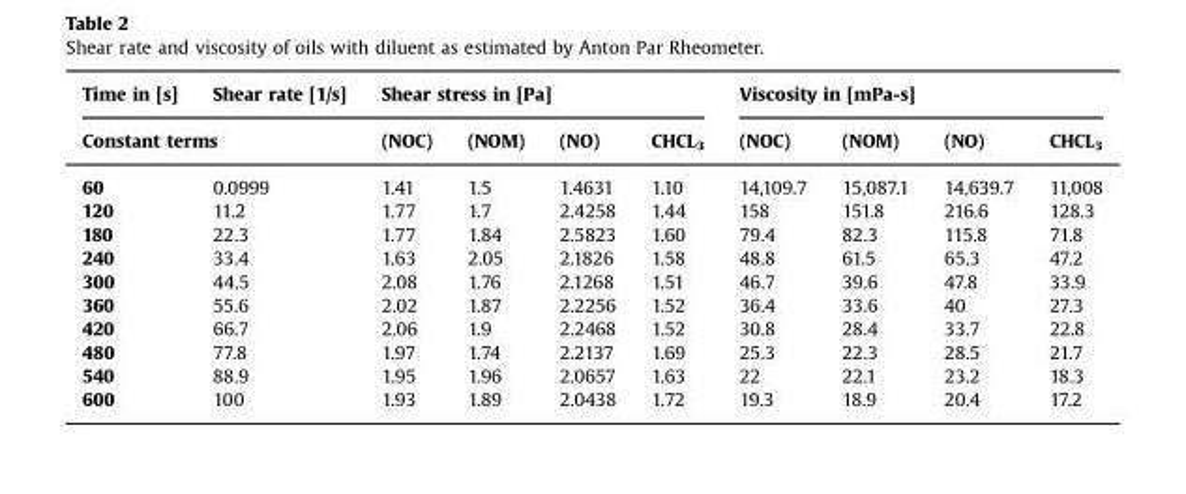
<table><thead><tr><td>Time in [s]</td><td>Shear rate [1/s]</td><td colspan="4">Shear stress in [Pa]</td><td colspan="4">Viscosity in [mPa-s]</td></tr><tr><td colspan="2">Constant terms</td><td>(NOC)</td><td>(NOM)</td><td>(NO)</td><td>CHCL<sub>3</sub></td><td>(NOC)</td><td>(NOM)</td><td>(NO)</td><td>CHCL<sub>3</sub></td></tr></thead><tbody><tr><td>60</td><td>0.0999</td><td>1.41</td><td>1.5</td><td>1.4631</td><td>1.10</td><td>14,109.7</td><td>15,087.1</td><td>14,639.7</td><td>11,008</td></tr><tr><td>120</td><td>11.2</td><td>1.77</td><td>1.7</td><td>2.4258</td><td>1.44</td><td>158</td><td>151.8</td><td>216.6</td><td>128.3</td></tr><tr><td>180</td><td>22.3</td><td>1.77</td><td>1.84</td><td>2.5823</td><td>1.60</td><td>79.4</td><td>82.3</td><td>115.8</td><td>71.8</td></tr><tr><td>240</td><td>33.4</td><td>1.63</td><td>2.05</td><td>2.1826</td><td>1.58</td><td>48.8</td><td>61.5</td><td>65.3</td><td>47.2</td></tr><tr><td>300</td><td>44.5</td><td>2.08</td><td>1.76</td><td>2.1268</td><td>1.51</td><td>46.7</td><td>39.6</td><td>47.8</td><td>33.9</td></tr><tr><td>360</td><td>55.6</td><td>2.02</td><td>1.87</td><td>2.2256</td><td>1.52</td><td>36.4</td><td>33.6</td><td>40</td><td>27.3</td></tr><tr><td>420</td><td>66.7</td><td>2.06</td><td>1.9</td><td>2.2468</td><td>1.52</td><td>30.8</td><td>28.4</td><td>33.7</td><td>22.8</td></tr><tr><td>480</td><td>77.8</td><td>1.97</td><td>1.74</td><td>2.2137</td><td>1.69</td><td>25.3</td><td>22.3</td><td>28.5</td><td>21.7</td></tr><tr><td>540</td><td>88.9</td><td>1.95</td><td>1.96</td><td>2.0657</td><td>1.63</td><td>22</td><td>22.1</td><td>23.2</td><td>18.3</td></tr><tr><td>600</td><td>100</td><td>1.93</td><td>1.89</td><td>2.0438</td><td>1.72</td><td>19.3</td><td>18.9</td><td>20.4</td><td>17.2</td></tr></tbody></table>